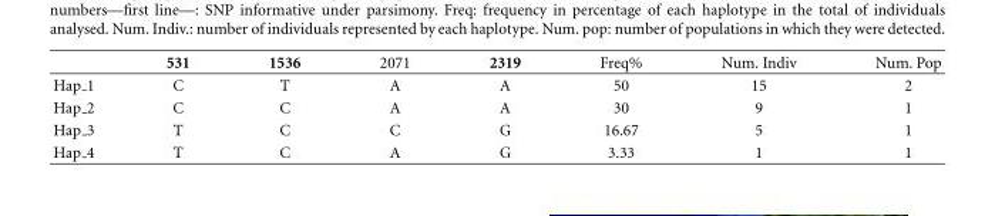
<table><thead><tr><td></td><td>531</td><td>1536</td><td>2071</td><td>2319</td><td>Freq%</td><td>Num. Indiv</td><td>Num. Pop</td></tr></thead><tbody><tr><td>Hap 1</td><td>C</td><td>T</td><td>A</td><td>A</td><td>50</td><td>15</td><td>2</td></tr><tr><td>Hap 2</td><td>C</td><td>C</td><td>A</td><td>A</td><td>30</td><td>9</td><td>1</td></tr><tr><td>Hap 3</td><td>T</td><td>C</td><td>C</td><td>G</td><td>16.67</td><td>5</td><td>1</td></tr><tr><td>Hap 4</td><td>T</td><td>C</td><td>A</td><td>G</td><td>3.33</td><td>1</td><td>1</td></tr></tbody></table>